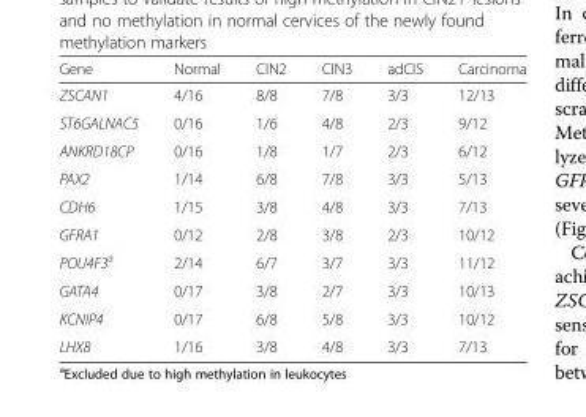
<table><thead><tr><td>Gene</td><td>Normal</td><td>CIN2</td><td>CIN3</td><td>adCIS</td><td>Carcinoma</td></tr></thead><tbody><tr><td>ZSCAN1</td><td>4/16</td><td>8/8</td><td>7/8</td><td>3/3</td><td>12/13</td></tr><tr><td>ST6GALNAC5</td><td>0/16</td><td>1/6</td><td>4/8</td><td>2/3</td><td>9/12</td></tr><tr><td>ANKRD18CP</td><td>0/16</td><td>1/8</td><td>1/7</td><td>2/3</td><td>6/12</td></tr><tr><td>PAX2</td><td>1/14</td><td>6/8</td><td>7/8</td><td>3/3</td><td>5/13</td></tr><tr><td>CDH6</td><td>1/15</td><td>3/8</td><td>4/8</td><td>3/3</td><td>7/13</td></tr><tr><td>GFRA1</td><td>0/12</td><td>2/8</td><td>3/8</td><td>2/3</td><td>10/12</td></tr><tr><td>POU4F3<sup>a</sup></td><td>2/14</td><td>6/7</td><td>3/7</td><td>3/3</td><td>11/12</td></tr><tr><td>GATA4</td><td>0/17</td><td>3/8</td><td>2/7</td><td>3/3</td><td>10/13</td></tr><tr><td>KCNIP4</td><td>0/17</td><td>6/8</td><td>5/8</td><td>3/3</td><td>10/12</td></tr><tr><td>LHX8</td><td>1/16</td><td>3/8</td><td>4/8</td><td>3/3</td><td>7/13</td></tr></tbody></table>